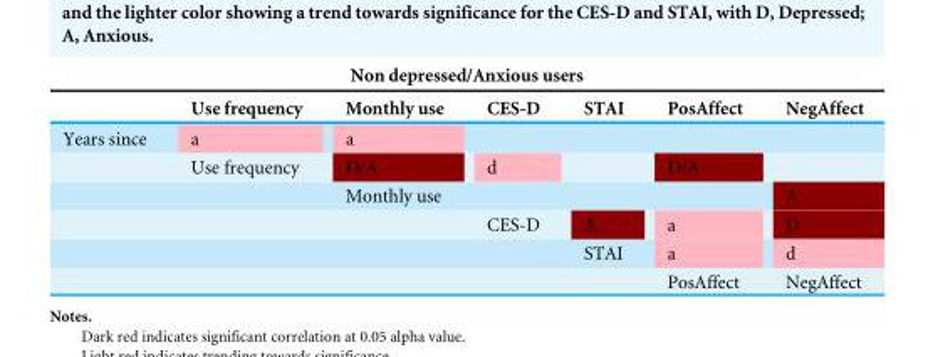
<table><thead><tr><td colspan="7">Non depressed/Anxious users</td></tr><tr><td></td><td>Use frequency</td><td>Monthly use</td><td>CES-D</td><td>STAI</td><td>PosAffect</td><td>NegAffect</td></tr></thead><tbody><tr><td rowspan="6">Years since</td><td>a</td><td>a</td><td></td><td></td><td></td><td></td></tr><tr><td>Use frequency</td><td>D/A</td><td>d</td><td></td><td>D/A</td><td></td></tr><tr><td></td><td>Monthly use</td><td></td><td></td><td></td><td>A</td></tr><tr><td></td><td></td><td>CES-D</td><td>A</td><td>a</td><td>D</td></tr><tr><td></td><td></td><td></td><td>STAI</td><td>a</td><td>d</td></tr><tr><td></td><td></td><td></td><td></td><td>PosAffect</td><td>NegAffect</td></tr></tbody></table>